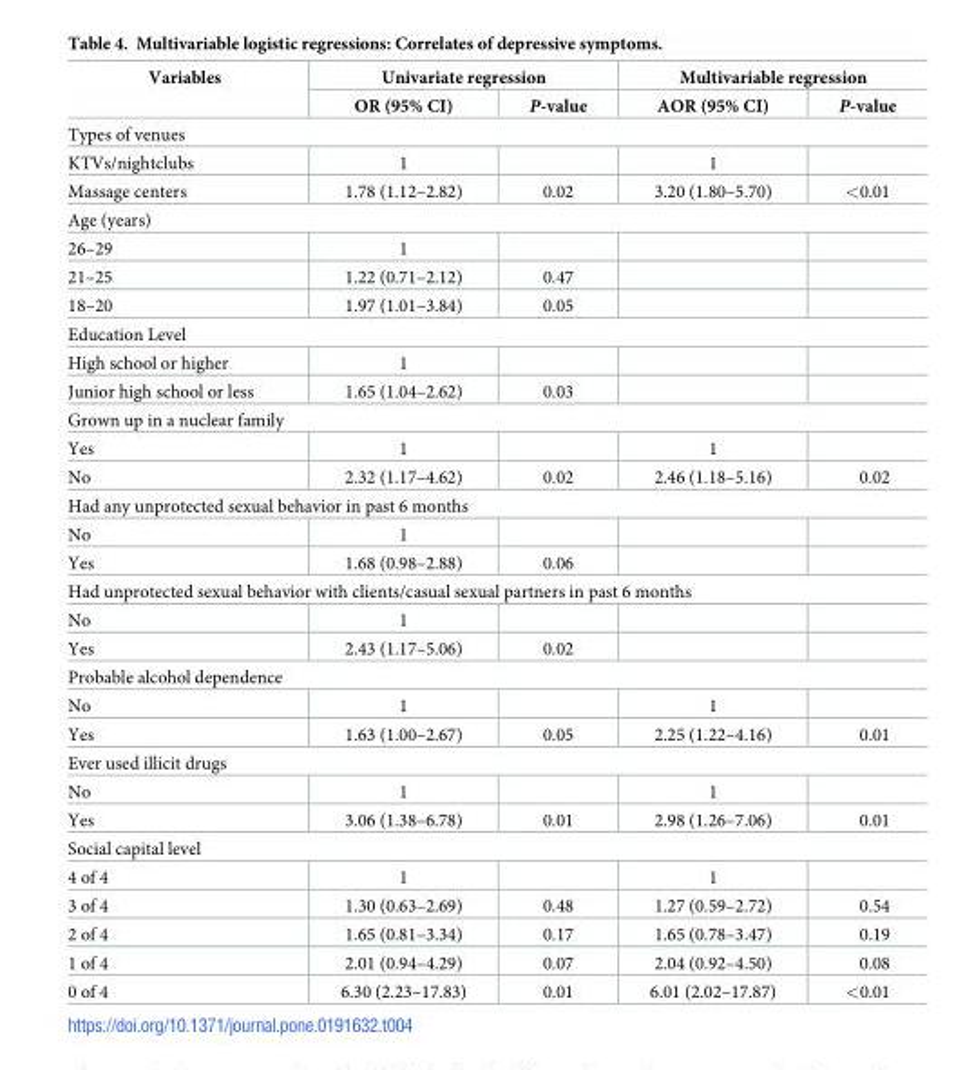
<table><thead><tr><td rowspan="2">Variables</td><td colspan="2">Univariate regression</td><td colspan="2">Multivariable regression</td></tr><tr><td>OR (95% CI)</td><td>P-value</td><td>AOR (95% CI)</td><td>P-value</td></tr></thead><tbody><tr><td colspan="5">Types of venues</td></tr><tr><td>KTVs/nightclubs</td><td>1</td><td></td><td>1</td><td></td></tr><tr><td>Massage centers</td><td>1.78 (1.12–2.82)</td><td>0.02</td><td>3.20 (1.80–5.70)</td><td>&lt;0.01</td></tr><tr><td colspan="5">Age (years)</td></tr><tr><td>26–29</td><td>1</td><td></td><td></td><td></td></tr><tr><td>21–25</td><td>1.22 (0.71–2.12)</td><td>0.47</td><td></td><td></td></tr><tr><td>18–20</td><td>1.97 (1.01–3.84)</td><td>0.05</td><td></td><td></td></tr><tr><td colspan="5">Education Level</td></tr><tr><td>High school or higher</td><td>1</td><td></td><td></td><td></td></tr><tr><td>Junior high school or less</td><td>1.65 (1.04–2.62)</td><td>0.03</td><td></td><td></td></tr><tr><td colspan="5">Grown up in a nuclear family</td></tr><tr><td>Yes</td><td>1</td><td></td><td>1</td><td></td></tr><tr><td>No</td><td>2.32 (1.17–4.62)</td><td>0.02</td><td>2.46 (1.18–5.16)</td><td>0.02</td></tr><tr><td colspan="5">Had any unprotected sexual behavior in past 6 months</td></tr><tr><td>No</td><td>1</td><td></td><td></td><td></td></tr><tr><td>Yes</td><td>1.68 (0.98–2.88)</td><td>0.06</td><td></td><td></td></tr><tr><td colspan="5">Had unprotected sexual behavior with clients/casual sexual partners in past 6 months</td></tr><tr><td>No</td><td>1</td><td></td><td></td><td></td></tr><tr><td>Yes</td><td>2.43 (1.17–5.06)</td><td>0.02</td><td></td><td></td></tr><tr><td colspan="5">Probable alcohol dependence</td></tr><tr><td>No</td><td>1</td><td></td><td>1</td><td></td></tr><tr><td>Yes</td><td>1.63 (1.00–2.67)</td><td>0.05</td><td>2.25 (1.22–4.16)</td><td>0.01</td></tr><tr><td colspan="5">Ever used illicit drugs</td></tr><tr><td>No</td><td>1</td><td></td><td>1</td><td></td></tr><tr><td>Yes</td><td>3.06 (1.38–6.78)</td><td>0.01</td><td>2.98 (1.26–7.06)</td><td>0.01</td></tr><tr><td colspan="5">Social capital level</td></tr><tr><td>4 of 4</td><td>1</td><td></td><td>1</td><td></td></tr><tr><td>3 of 4</td><td>1.30 (0.63–2.69)</td><td>0.48</td><td>1.27 (0.59–2.72)</td><td>0.54</td></tr><tr><td>2 of 4</td><td>1.65 (0.81–3.34)</td><td>0.17</td><td>1.65 (0.78–3.47)</td><td>0.19</td></tr><tr><td>1 of 4</td><td>2.01 (0.94–4.29)</td><td>0.07</td><td>2.04 (0.92–4.50)</td><td>0.08</td></tr><tr><td>0 of 4</td><td>6.30 (2.23–17.83)</td><td>0.01</td><td>6.01 (2.02–17.87)</td><td>&lt;0.01</td></tr></tbody></table>